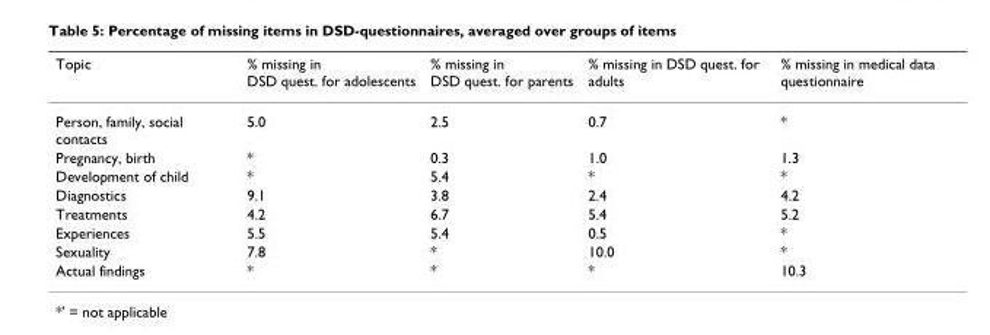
<table><thead><tr><td>Topic</td><td>% missing in DSD quest. for adolescents</td><td>% missing in DSD quest. for parents</td><td>% missing in DSD quest. for adults</td><td>% missing in medical data questionnaire</td></tr></thead><tbody><tr><td>Person, family, social contacts</td><td>5.0</td><td>2.5</td><td>0.7</td><td>*</td></tr><tr><td>Pregnancy, birth</td><td>*</td><td>0.3</td><td>1.0</td><td>1.3</td></tr><tr><td>Development of child</td><td>*</td><td>5.4</td><td>*</td><td>*</td></tr><tr><td>Diagnostics</td><td>9.1</td><td>3.8</td><td>2.4</td><td>4.2</td></tr><tr><td>Treatments</td><td>4.2</td><td>6.7</td><td>5.4</td><td>5.2</td></tr><tr><td>Experiences</td><td>5.5</td><td>5.4</td><td>0.5</td><td>*</td></tr><tr><td>Sexuality</td><td>7.8</td><td>*</td><td>10.0</td><td>*</td></tr><tr><td>Actual findings</td><td>*</td><td>*</td><td>*</td><td>10.3</td></tr></tbody></table>